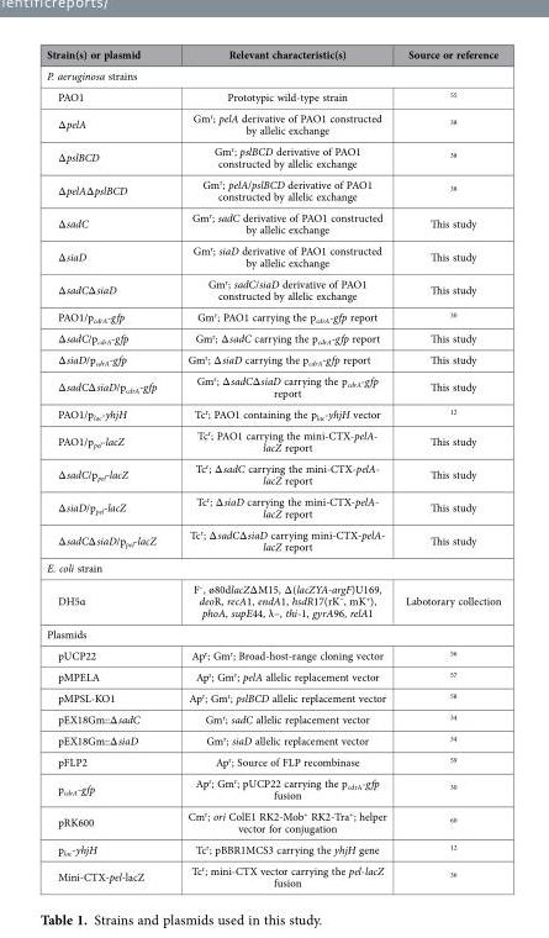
<table><thead><tr><td>Strain(s) or plasmid</td><td>Relevant characteristic(s)</td><td>Source or reference</td></tr></thead><tbody><tr><td colspan="3">P. aeruginosa strains</td></tr><tr><td>PAO1</td><td>Prototypic wild-type strain</td><td>55</td></tr><tr><td>Δ pelA</td><td>Gm<sup>r</sup>; pelA derivative of PAO1 constructed by allelic exchange</td><td>38</td></tr><tr><td>Δ pslBCD</td><td>Gm<sup>r</sup>; pslBCD derivative of PAO1 constructed by allelic exchange</td><td>38</td></tr><tr><td>Δ pelAΔ pslBCD</td><td>Gm<sup>r</sup>; pelA/pslBCD derivative of PAO1 constructed by allelic exchange</td><td>38</td></tr><tr><td>Δ sadC</td><td>Gm<sup>r</sup>; sadC derivative of PAO1 constructed by allelic exchange</td><td>This study</td></tr><tr><td>Δ siaD</td><td>Gm<sup>r</sup>; siaD derivative of PAO1 constructed by allelic exchange</td><td>This study</td></tr><tr><td>Δ sadCΔ siaD</td><td>Gm<sup>r</sup>; sadC/siaD derivative of PAO1 constructed by allelic exchange</td><td>This study</td></tr><tr><td>PAO1/p<sub>cdrA</sub>-gfp</td><td>Gm<sup>r</sup>; PAO1 carrying the p<sub>cdrA</sub>-gfp report</td><td>30</td></tr><tr><td>Δ sadC/p<sub>cdrA</sub>-gfp</td><td>Gm<sup>r</sup>; Δ sadC carrying the p<sub>cdrA</sub>-gfp report</td><td>This study</td></tr><tr><td>Δ siaD/p<sub>cdrA</sub>-gfp</td><td>Gm<sup>r</sup>; Δ siaD carrying the p<sub>cdrA</sub>-gfp report</td><td>This study</td></tr><tr><td>Δ sadCΔ siaD/p<sub>cdrA</sub>-gfp</td><td>Gm<sup>r</sup>; Δ sadCΔ siaD carrying the p<sub>cdrA</sub>-gfp report</td><td>This study</td></tr><tr><td>PAO1/p<sub>lac</sub>-yhjH</td><td>Tc<sup>r</sup>; PAO1 containing the p<sub>lac</sub>-yhjH vector</td><td>12</td></tr><tr><td>PAO1/p<sub>pel</sub>-lacZ</td><td>Tc<sup>r</sup>; PAO1 carrying the mini-CTX-pelA- lacZ report</td><td>This study</td></tr><tr><td>Δ sadC/p<sub>pel</sub>-lacZ</td><td>Tc<sup>r</sup>; Δ sadC carrying the mini-CTX-pelA- lacZ report</td><td>This study</td></tr><tr><td>Δ siaD/p<sub>pel</sub>-lacZ</td><td>Tc<sup>r</sup>; Δ siaD carrying the mini-CTX-pelA- lacZ report</td><td>This study</td></tr><tr><td>Δ sadCΔ siaD/p<sub>pel</sub>-lacZ</td><td>Tc<sup>r</sup>; Δ sadCΔ siaD carrying mini-CTX-pelA- lacZ report</td><td>This study</td></tr><tr><td colspan="3">E. coli strain</td></tr><tr><td>DH5α</td><td>F<sup>–</sup>, ø80dlacZΔ M15, Δ (lacZYA-argF)U169, deoR, recA1, endA1, hsdR17(rK<sup>−</sup>, mK<sup>+</sup>), phoA, supE44, λ–, thi-1, gyrA96, relA1</td><td>Labotorary collection</td></tr><tr><td colspan="3">Plasmids</td></tr><tr><td>pUCP22</td><td>Ap<sup>r</sup>; Gm<sup>r</sup>; Broad-host-range cloning vector</td><td>56</td></tr><tr><td>pMPELA</td><td>Ap<sup>r</sup>; Gm<sup>r</sup>; pelA allelic replacement vector</td><td>57</td></tr><tr><td>pMPSL-KO1</td><td>Ap<sup>r</sup>; Gm<sup>r</sup>; pslBCD allelic replacement vector</td><td>58</td></tr><tr><td>pEX18Gm::Δ sadC</td><td>Gm<sup>r</sup>; sadC allelic replacement vector</td><td>34</td></tr><tr><td>pEX18Gm::Δ siaD</td><td>Gm<sup>r</sup>; siaD allelic replacement vector</td><td>34</td></tr><tr><td>pFLP2</td><td>Ap<sup>r</sup>; Source of FLP recombinase</td><td>59</td></tr><tr><td>p<sub>cdrA</sub>-gfp</td><td>Ap<sup>r</sup>; Gm<sup>r</sup>; pUCP22 carrying the p<sub>cdrA</sub>-gfp fusion</td><td>30</td></tr><tr><td>pRK600</td><td>Cm<sup>r</sup>; ori ColE1 RK2-Mob<sup>+</sup> RK2-Tra<sup>+</sup>; helper vector for conjugation</td><td>60</td></tr><tr><td>p<sub>lac</sub>-yhjH</td><td>Tc<sup>r</sup>; pBBR1MCS3 carrying the yhjH gene</td><td>12</td></tr><tr><td>Mini-CTX-pel-lacZ</td><td>Tc<sup>r</sup>; mini-CTX vector carrying the pel-lacZ fusion</td><td>36</td></tr></tbody></table>